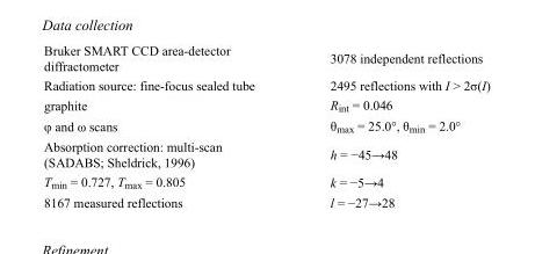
<table><tbody><tr><td>Bruker SMART CCD area-detector diffractometer</td><td>3078 independent reflections</td></tr><tr><td>Radiation source: fine-focus sealed tube</td><td>2495 reflections with I &gt; 2σ(I)</td></tr><tr><td>graphite</td><td>R<sub>int</sub> = 0.046</td></tr><tr><td>φ and ω scans</td><td>θ<sub>max</sub> = 25.0°, θ<sub>min</sub> = 2.0°</td></tr><tr><td>Absorption correction: multi-scan (SADABS; Sheldrick, 1996)</td><td>h = −45→48</td></tr><tr><td>T<sub>min</sub> = 0.727, T<sub>max</sub> = 0.805</td><td>k = −5→4</td></tr><tr><td>8167 measured reflections</td><td>l = −27→28</td></tr></tbody></table>